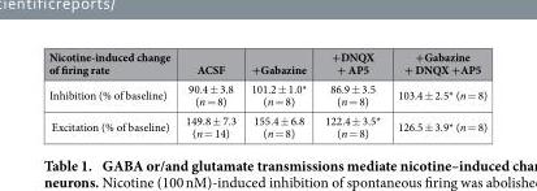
<table><thead><tr><td>Nicotine-induced change of firing rate</td><td>ACSF</td><td>+Gabazine</td><td>+DNQX + AP5</td><td>+Gabazine + DNQX +AP5</td></tr></thead><tbody><tr><td>Inhibition (% of baseline)</td><td>90.4 ± 3.8 (n = 8)</td><td>101.2 ± 1.0* (n = 8)</td><td>86.9 ± 3.5 (n = 8)</td><td>103.4 ± 2.5* (n = 8)</td></tr><tr><td>Excitation (% of baseline)</td><td>149.8 ± 7.3 (n = 14)</td><td>155.4 ± 6.8 (n = 8)</td><td>122.4 ± 3.5* (n = 8)</td><td>126.5 ± 3.9* (n = 8)</td></tr></tbody></table>